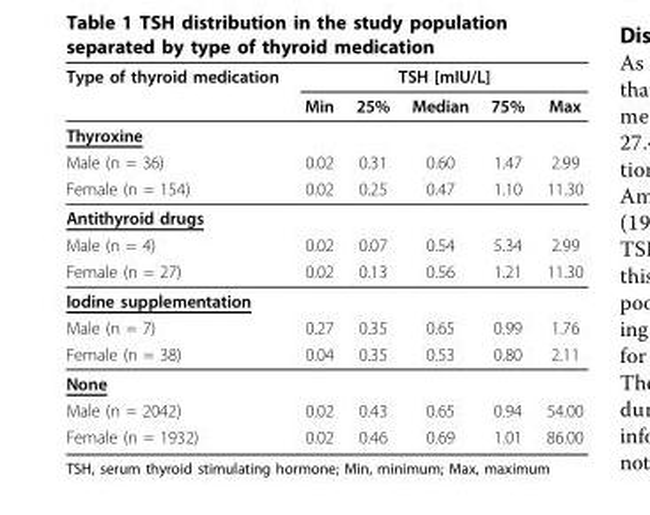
<table><thead><tr><td rowspan="2">Type of thyroid medication</td><td colspan="5">TSH [mIU/L]</td></tr><tr><td>Min</td><td>25%</td><td>Median</td><td>75%</td><td>Max</td></tr></thead><tbody><tr><td colspan="6">Thyroxine</td></tr><tr><td>Male (n = 36)</td><td>0.02</td><td>0.31</td><td>0.60</td><td>1.47</td><td>2.99</td></tr><tr><td>Female (n = 154)</td><td>0.02</td><td>0.25</td><td>0.47</td><td>1.10</td><td>11.30</td></tr><tr><td colspan="6">Antithyroid drugs</td></tr><tr><td>Male (n = 4)</td><td>0.02</td><td>0.07</td><td>0.54</td><td>5.34</td><td>2.99</td></tr><tr><td>Female (n = 27)</td><td>0.02</td><td>0.13</td><td>0.56</td><td>1.21</td><td>11.30</td></tr><tr><td colspan="6">Iodine supplementation</td></tr><tr><td>Male (n = 7)</td><td>0.27</td><td>0.35</td><td>0.65</td><td>0.99</td><td>1.76</td></tr><tr><td>Female (n = 38)</td><td>0.04</td><td>0.35</td><td>0.53</td><td>0.80</td><td>2.11</td></tr><tr><td colspan="6">None</td></tr><tr><td>Male (n = 2042)</td><td>0.02</td><td>0.43</td><td>0.65</td><td>0.94</td><td>54.00</td></tr><tr><td>Female (n = 1932)</td><td>0.02</td><td>0.46</td><td>0.69</td><td>1.01</td><td>86.00</td></tr></tbody></table>